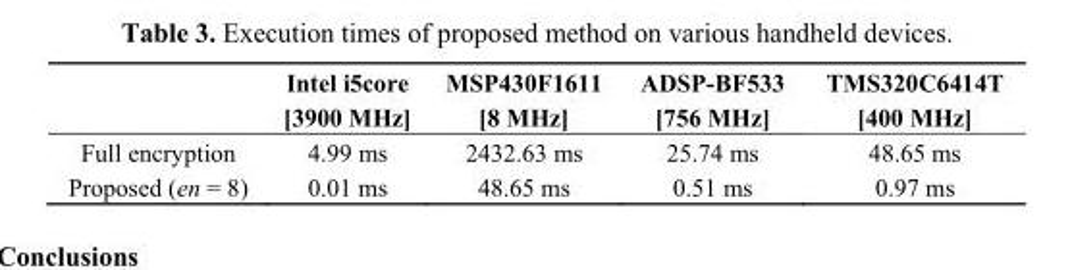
<table><thead><tr><td></td><td>Intel i5core [3900 MHz]</td><td>MSP430F1611 [8 MHz]</td><td>ADSP-BF533 [756 MHz]</td><td>TMS320C6414T [400 MHz]</td></tr></thead><tbody><tr><td>Full encryption</td><td>4.99 ms</td><td>2432.63 ms</td><td>25.74 ms</td><td>48.65 ms</td></tr><tr><td>Proposed (en = 8)</td><td>0.01 ms</td><td>48.65 ms</td><td>0.51 ms</td><td>0.97 ms</td></tr></tbody></table>